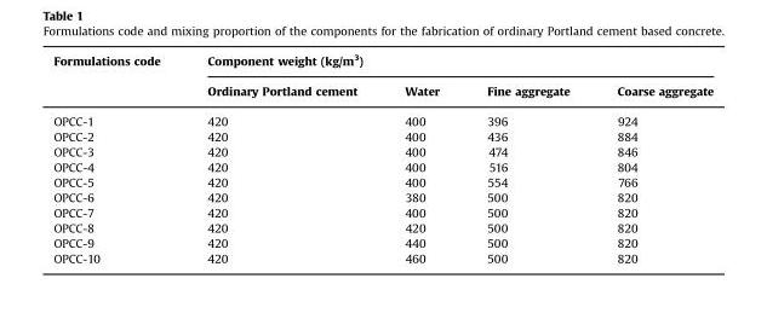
<table><thead><tr><td rowspan="2">Formulations code</td><td colspan="4">Component weight (kg/m<sup>3</sup>)</td></tr><tr><td>Ordinary Portland cement</td><td>Water</td><td>Fine aggregate</td><td>Coarse aggregate</td></tr></thead><tbody><tr><td>OPCC-1</td><td>420</td><td>400</td><td>396</td><td>924</td></tr><tr><td>OPCC-2</td><td>420</td><td>400</td><td>436</td><td>884</td></tr><tr><td>OPCC-3</td><td>420</td><td>400</td><td>474</td><td>846</td></tr><tr><td>OPCC-4</td><td>420</td><td>400</td><td>516</td><td>804</td></tr><tr><td>OPCC-5</td><td>420</td><td>400</td><td>554</td><td>766</td></tr><tr><td>OPCC-6</td><td>420</td><td>380</td><td>500</td><td>820</td></tr><tr><td>OPCC-7</td><td>420</td><td>400</td><td>500</td><td>820</td></tr><tr><td>OPCC-8</td><td>420</td><td>420</td><td>500</td><td>820</td></tr><tr><td>OPCC-9</td><td>420</td><td>440</td><td>500</td><td>820</td></tr><tr><td>OPCC-10</td><td>420</td><td>460</td><td>500</td><td>820</td></tr></tbody></table>